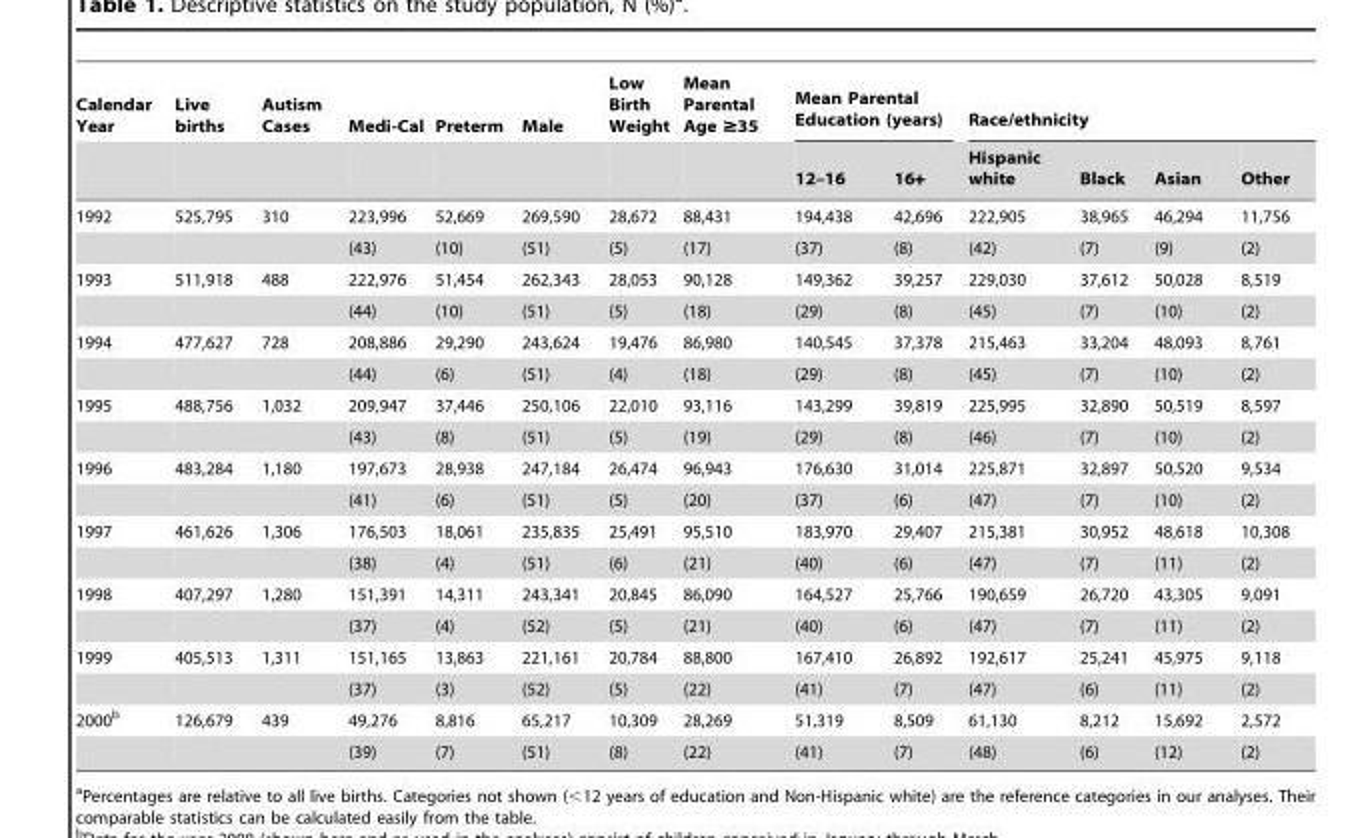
<table><thead><tr><td rowspan="2">Calendar Year</td><td rowspan="2">Live births</td><td rowspan="2">Autism Cases</td><td rowspan="2">Medi-Cal</td><td rowspan="2">Preterm</td><td rowspan="2">Male</td><td rowspan="2">Low Birth Weight</td><td rowspan="2">Mean Parental Age ≥35</td><td colspan="2">Mean Parental Education (years)</td><td colspan="4">Race/ethnicity</td></tr><tr><td>12–16</td><td>16+</td><td>Hispanic white</td><td>Black</td><td>Asian</td><td>Other</td></tr></thead><tbody><tr><td rowspan="2">1992</td><td>525,795</td><td>310</td><td>223,996</td><td>52,669</td><td>269,590</td><td>28,672</td><td>88,431</td><td>194,438</td><td>42,696</td><td>222,905</td><td>38,965</td><td>46,294</td><td>11,756</td></tr><tr><td></td><td></td><td>(43)</td><td>(10)</td><td>(51)</td><td>(5)</td><td>(17)</td><td>(37)</td><td>(8)</td><td>(42)</td><td>(7)</td><td>(9)</td><td>(2)</td></tr><tr><td rowspan="2">1993</td><td>511,918</td><td>488</td><td>222,976</td><td>51,454</td><td>262,343</td><td>28,053</td><td>90,128</td><td>149,362</td><td>39,257</td><td>229,030</td><td>37,612</td><td>50,028</td><td>8,519</td></tr><tr><td></td><td></td><td>(44)</td><td>(10)</td><td>(51)</td><td>(5)</td><td>(18)</td><td>(29)</td><td>(8)</td><td>(45)</td><td>(7)</td><td>(10)</td><td>(2)</td></tr><tr><td rowspan="2">1994</td><td>477,627</td><td>728</td><td>208,886</td><td>29,290</td><td>243,624</td><td>19,476</td><td>86,980</td><td>140,545</td><td>37,378</td><td>215,463</td><td>33,204</td><td>48,093</td><td>8,761</td></tr><tr><td></td><td></td><td>(44)</td><td>(6)</td><td>(51)</td><td>(4)</td><td>(18)</td><td>(29)</td><td>(8)</td><td>(45)</td><td>(7)</td><td>(10)</td><td>(2)</td></tr><tr><td rowspan="2">1995</td><td>488,756</td><td>1,032</td><td>209,947</td><td>37,446</td><td>250,106</td><td>22,010</td><td>93,116</td><td>143,299</td><td>39,819</td><td>225,995</td><td>32,890</td><td>50,519</td><td>8,597</td></tr><tr><td></td><td></td><td>(43)</td><td>(8)</td><td>(51)</td><td>(5)</td><td>(19)</td><td>(29)</td><td>(8)</td><td>(46)</td><td>(7)</td><td>(10)</td><td>(2)</td></tr><tr><td rowspan="2">1996</td><td>483,284</td><td>1,180</td><td>197,673</td><td>28,938</td><td>247,184</td><td>26,474</td><td>96,943</td><td>176,630</td><td>31,014</td><td>225,871</td><td>32,897</td><td>50,520</td><td>9,534</td></tr><tr><td></td><td></td><td>(41)</td><td>(6)</td><td>(51)</td><td>(5)</td><td>(20)</td><td>(37)</td><td>(6)</td><td>(47)</td><td>(7)</td><td>(10)</td><td>(2)</td></tr><tr><td rowspan="2">1997</td><td>461,626</td><td>1,306</td><td>176,503</td><td>18,061</td><td>235,835</td><td>25,491</td><td>95,510</td><td>183,970</td><td>29,407</td><td>215,381</td><td>30,952</td><td>48,618</td><td>10,308</td></tr><tr><td></td><td></td><td>(38)</td><td>(4)</td><td>(51)</td><td>(6)</td><td>(21)</td><td>(40)</td><td>(6)</td><td>(47)</td><td>(7)</td><td>(11)</td><td>(2)</td></tr><tr><td rowspan="2">1998</td><td>407,297</td><td>1,280</td><td>151,391</td><td>14,311</td><td>243,341</td><td>20,845</td><td>86,090</td><td>164,527</td><td>25,766</td><td>190,659</td><td>26,720</td><td>43,305</td><td>9,091</td></tr><tr><td></td><td></td><td>(37)</td><td>(4)</td><td>(52)</td><td>(5)</td><td>(21)</td><td>(40)</td><td>(6)</td><td>(47)</td><td>(7)</td><td>(11)</td><td>(2)</td></tr><tr><td rowspan="2">1999</td><td>405,513</td><td>1,311</td><td>151,165</td><td>13,863</td><td>221,161</td><td>20,784</td><td>88,800</td><td>167,410</td><td>26,892</td><td>192,617</td><td>25,241</td><td>45,975</td><td>9,118</td></tr><tr><td></td><td></td><td>(37)</td><td>(3)</td><td>(52)</td><td>(5)</td><td>(22)</td><td>(41)</td><td>(7)</td><td>(47)</td><td>(6)</td><td>(11)</td><td>(2)</td></tr><tr><td rowspan="2">2000<sup>b</sup></td><td>126,679</td><td>439</td><td>49,276</td><td>8,816</td><td>65,217</td><td>10,309</td><td>28,269</td><td>51,319</td><td>8,509</td><td>61,130</td><td>8,212</td><td>15,692</td><td>2,572</td></tr><tr><td></td><td></td><td>(39)</td><td>(7)</td><td>(51)</td><td>(8)</td><td>(22)</td><td>(41)</td><td>(7)</td><td>(48)</td><td>(6)</td><td>(12)</td><td>(2)</td></tr></tbody></table>